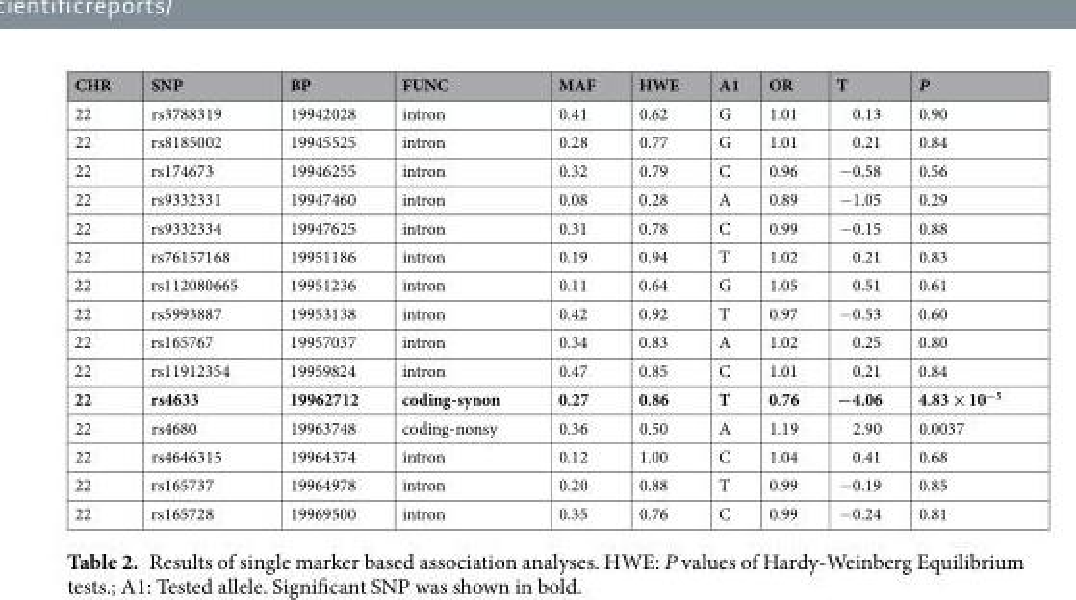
<table><thead><tr><td>CHR</td><td>SNP</td><td>BP</td><td>FUNC</td><td>MAF</td><td>HWE</td><td>A1</td><td>OR</td><td>T</td><td>P</td></tr></thead><tbody><tr><td>22</td><td>rs3788319</td><td>19942028</td><td>intron</td><td>0.41</td><td>0.62</td><td>G</td><td>1.01</td><td>0.13</td><td>0.90</td></tr><tr><td>22</td><td>rs8185002</td><td>19945525</td><td>intron</td><td>0.28</td><td>0.77</td><td>G</td><td>1.01</td><td>0.21</td><td>0.84</td></tr><tr><td>22</td><td>rs174673</td><td>19946255</td><td>intron</td><td>0.32</td><td>0.79</td><td>C</td><td>0.96</td><td>−0.58</td><td>0.56</td></tr><tr><td>22</td><td>rs9332331</td><td>19947460</td><td>intron</td><td>0.08</td><td>0.28</td><td>A</td><td>0.89</td><td>−1.05</td><td>0.29</td></tr><tr><td>22</td><td>rs9332334</td><td>19947625</td><td>intron</td><td>0.31</td><td>0.78</td><td>C</td><td>0.99</td><td>−0.15</td><td>0.88</td></tr><tr><td>22</td><td>rs76157168</td><td>19951186</td><td>intron</td><td>0.19</td><td>0.94</td><td>T</td><td>1.02</td><td>0.21</td><td>0.83</td></tr><tr><td>22</td><td>rs112080665</td><td>19951236</td><td>intron</td><td>0.11</td><td>0.64</td><td>G</td><td>1.05</td><td>0.51</td><td>0.61</td></tr><tr><td>22</td><td>rs5993887</td><td>19953138</td><td>intron</td><td>0.42</td><td>0.92</td><td>T</td><td>0.97</td><td>−0.53</td><td>0.60</td></tr><tr><td>22</td><td>rs165767</td><td>19957037</td><td>intron</td><td>0.34</td><td>0.83</td><td>A</td><td>1.02</td><td>0.25</td><td>0.80</td></tr><tr><td>22</td><td>rs11912354</td><td>19959824</td><td>intron</td><td>0.47</td><td>0.85</td><td>C</td><td>1.01</td><td>0.21</td><td>0.84</td></tr><tr><td>22</td><td>rs4633</td><td>19962712</td><td>coding-synon</td><td>0.27</td><td>0.86</td><td>T</td><td>0.76</td><td>−4.06</td><td>4.83 × 10<sup>−5</sup></td></tr><tr><td>22</td><td>rs4680</td><td>19963748</td><td>coding-nonsy</td><td>0.36</td><td>0.50</td><td>A</td><td>1.19</td><td>2.90</td><td>0.0037</td></tr><tr><td>22</td><td>rs4646315</td><td>19964374</td><td>intron</td><td>0.12</td><td>1.00</td><td>C</td><td>1.04</td><td>0.41</td><td>0.68</td></tr><tr><td>22</td><td>rs165737</td><td>19964978</td><td>intron</td><td>0.20</td><td>0.88</td><td>T</td><td>0.99</td><td>−0.19</td><td>0.85</td></tr><tr><td>22</td><td>rs165728</td><td>19969500</td><td>intron</td><td>0.35</td><td>0.76</td><td>C</td><td>0.99</td><td>−0.24</td><td>0.81</td></tr></tbody></table>